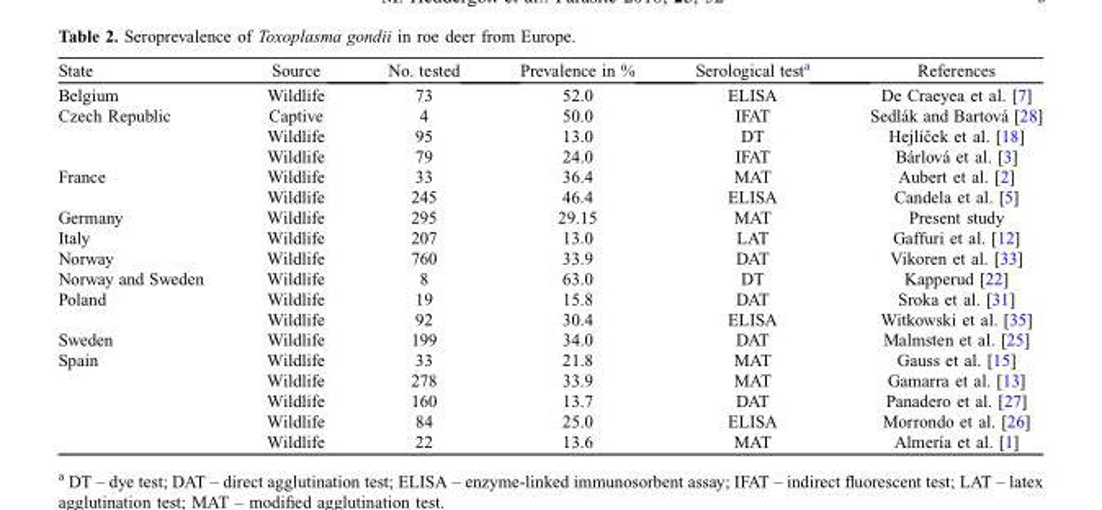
<table><thead><tr><td>State</td><td>Source</td><td>No. tested</td><td>Prevalence in %</td><td>Serological test<sup>a</sup></td><td>References</td></tr></thead><tbody><tr><td>Belgium</td><td>Wildlife</td><td>73</td><td>52.0</td><td>ELISA</td><td>De Craeyea et al. [7]</td></tr><tr><td rowspan="3">Czech Republic</td><td>Captive</td><td>4</td><td>50.0</td><td>IFAT</td><td>Sedlák and Bartová [28]</td></tr><tr><td>Wildlife</td><td>95</td><td>13.0</td><td>DT</td><td>Hejlícˇek et al. [18]</td></tr><tr><td>Wildlife</td><td>79</td><td>24.0</td><td>IFAT</td><td>Bárlová et al. [3]</td></tr><tr><td rowspan="2">France</td><td>Wildlife</td><td>33</td><td>36.4</td><td>MAT</td><td>Aubert et al. [2]</td></tr><tr><td>Wildlife</td><td>245</td><td>46.4</td><td>ELISA</td><td>Candela et al. [5]</td></tr><tr><td>Germany</td><td>Wildlife</td><td>295</td><td>29.15</td><td>MAT</td><td>Present study</td></tr><tr><td>Italy</td><td>Wildlife</td><td>207</td><td>13.0</td><td>LAT</td><td>Gaffuri et al. [12]</td></tr><tr><td>Norway</td><td>Wildlife</td><td>760</td><td>33.9</td><td>DAT</td><td>Vikoren et al. [33]</td></tr><tr><td>Norway and Sweden</td><td>Wildlife</td><td>8</td><td>63.0</td><td>DT</td><td>Kapperud [22]</td></tr><tr><td rowspan="2">Poland</td><td>Wildlife</td><td>19</td><td>15.8</td><td>DAT</td><td>Sroka et al. [31]</td></tr><tr><td>Wildlife</td><td>92</td><td>30.4</td><td>ELISA</td><td>Witkowski et al. [35]</td></tr><tr><td>Sweden</td><td>Wildlife</td><td>199</td><td>34.0</td><td>DAT</td><td>Malmsten et al. [25]</td></tr><tr><td rowspan="5">Spain</td><td>Wildlife</td><td>33</td><td>21.8</td><td>MAT</td><td>Gauss et al. [15]</td></tr><tr><td>Wildlife</td><td>278</td><td>33.9</td><td>MAT</td><td>Gamarra et al. [13]</td></tr><tr><td>Wildlife</td><td>160</td><td>13.7</td><td>DAT</td><td>Panadero et al. [27]</td></tr><tr><td>Wildlife</td><td>84</td><td>25.0</td><td>ELISA</td><td>Morrondo et al. [26]</td></tr><tr><td>Wildlife</td><td>22</td><td>13.6</td><td>MAT</td><td>Almería et al. [1]</td></tr></tbody></table>